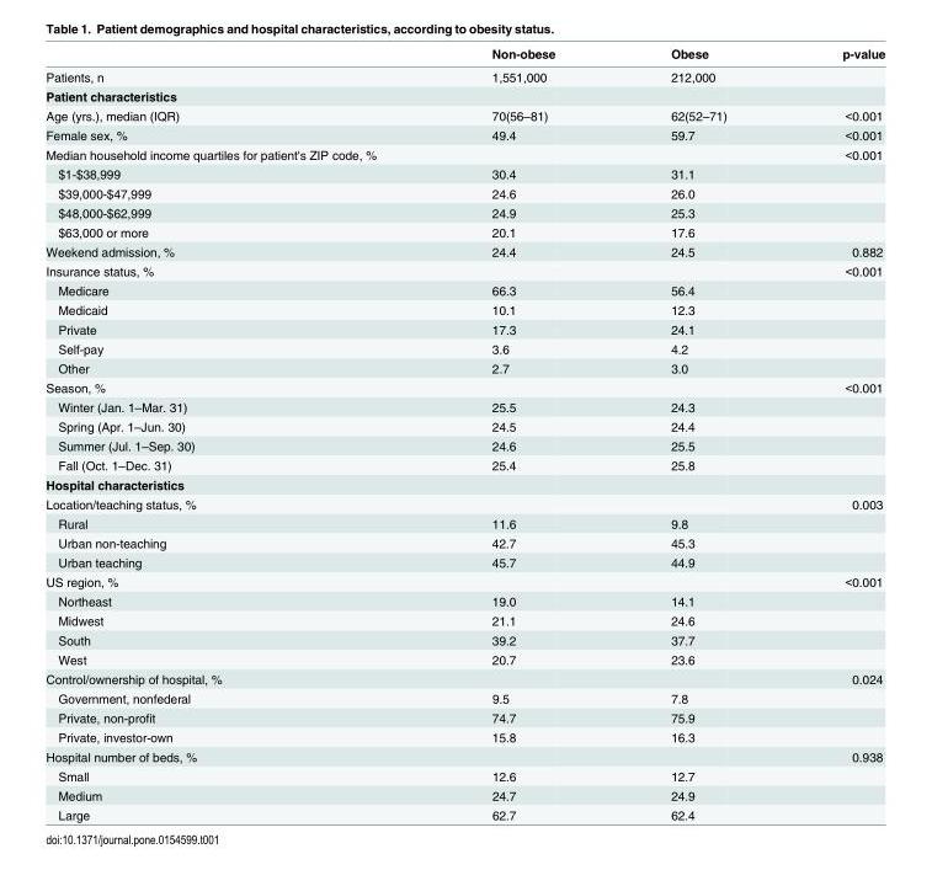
<table><thead><tr><td></td><td>Non-obese</td><td>Obese</td><td>p-value</td></tr></thead><tbody><tr><td>Patients, n</td><td>1,551,000</td><td>212,000</td><td></td></tr><tr><td colspan="4">Patient characteristics</td></tr><tr><td>Age (yrs.), median (IQR)</td><td>70(56–81)</td><td>62(52–71)</td><td>&lt;0.001</td></tr><tr><td>Female sex, %</td><td>49.4</td><td>59.7</td><td>&lt;0.001</td></tr><tr><td>Median household income quartiles for patient&#x27;s ZIP code, %</td><td></td><td></td><td>&lt;0.001</td></tr><tr><td>$1-$38,999</td><td>30.4</td><td>31.1</td><td></td></tr><tr><td>$39,000-$47,999</td><td>24.6</td><td>26.0</td><td></td></tr><tr><td>$48,000-$62,999</td><td>24.9</td><td>25.3</td><td></td></tr><tr><td>$63,000 or more</td><td>20.1</td><td>17.6</td><td></td></tr><tr><td>Weekend admission, %</td><td>24.4</td><td>24.5</td><td>0.882</td></tr><tr><td>Insurance status, %</td><td></td><td></td><td>&lt;0.001</td></tr><tr><td>Medicare</td><td>66.3</td><td>56.4</td><td></td></tr><tr><td>Medicaid</td><td>10.1</td><td>12.3</td><td></td></tr><tr><td>Private</td><td>17.3</td><td>24.1</td><td></td></tr><tr><td>Self-pay</td><td>3.6</td><td>4.2</td><td></td></tr><tr><td>Other</td><td>2.7</td><td>3.0</td><td></td></tr><tr><td>Season, %</td><td></td><td></td><td>&lt;0.001</td></tr><tr><td>Winter (Jan. 1–Mar. 31)</td><td>25.5</td><td>24.3</td><td></td></tr><tr><td>Spring (Apr. 1–Jun. 30)</td><td>24.5</td><td>24.4</td><td></td></tr><tr><td>Summer (Jul. 1–Sep. 30)</td><td>24.6</td><td>25.5</td><td></td></tr><tr><td>Fall (Oct. 1–Dec. 31)</td><td>25.4</td><td>25.8</td><td></td></tr><tr><td colspan="4">Hospital characteristics</td></tr><tr><td>Location/teaching status, %</td><td></td><td></td><td>0.003</td></tr><tr><td>Rural</td><td>11.6</td><td>9.8</td><td></td></tr><tr><td>Urban non-teaching</td><td>42.7</td><td>45.3</td><td></td></tr><tr><td>Urban teaching</td><td>45.7</td><td>44.9</td><td></td></tr><tr><td>US region, %</td><td></td><td></td><td>&lt;0.001</td></tr><tr><td>Northeast</td><td>19.0</td><td>14.1</td><td></td></tr><tr><td>Midwest</td><td>21.1</td><td>24.6</td><td></td></tr><tr><td>South</td><td>39.2</td><td>37.7</td><td></td></tr><tr><td>West</td><td>20.7</td><td>23.6</td><td></td></tr><tr><td>Control/ownership of hospital, %</td><td></td><td></td><td>0.024</td></tr><tr><td>Government, nonfederal</td><td>9.5</td><td>7.8</td><td></td></tr><tr><td>Private, non-profit</td><td>74.7</td><td>75.9</td><td></td></tr><tr><td>Private, investor-own</td><td>15.8</td><td>16.3</td><td></td></tr><tr><td>Hospital number of beds, %</td><td></td><td></td><td>0.938</td></tr><tr><td>Small</td><td>12.6</td><td>12.7</td><td></td></tr><tr><td>Medium</td><td>24.7</td><td>24.9</td><td></td></tr><tr><td>Large</td><td>62.7</td><td>62.4</td><td></td></tr></tbody></table>